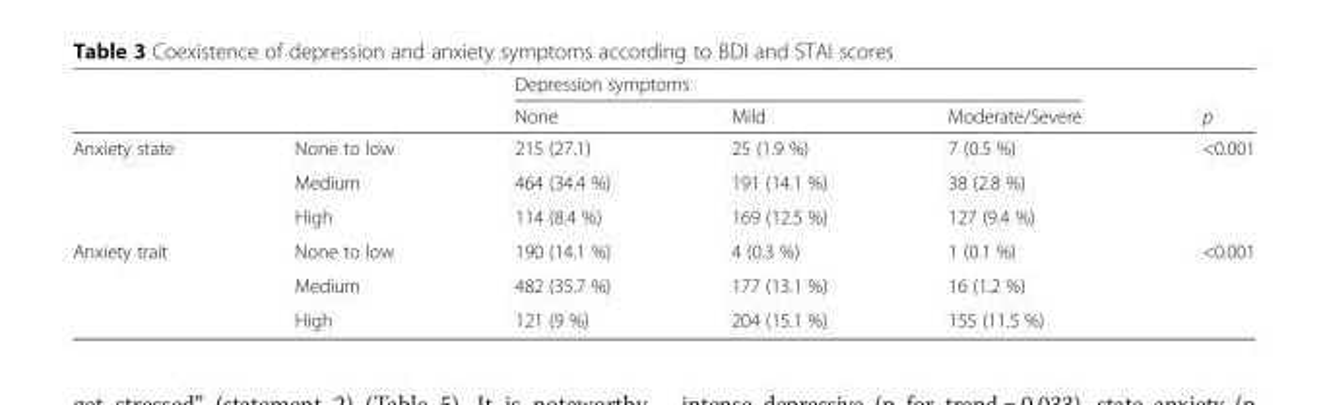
<table><thead><tr><td rowspan="2"></td><td rowspan="2"></td><td colspan="3">Depression symptoms</td><td rowspan="2">p</td></tr><tr><td>None</td><td>Mild</td><td>Moderate/Severe</td></tr></thead><tbody><tr><td rowspan="3">Anxiety state</td><td>None to low</td><td>215 (27.1)</td><td>25 (1.9 %)</td><td>7 (0.5 %)</td><td rowspan="3">&lt;0.001</td></tr><tr><td>Medium</td><td>464 (34.4 %)</td><td>191 (14.1 %)</td><td>38 (2.8 %)</td></tr><tr><td>High</td><td>114 (8.4 %)</td><td>169 (12.5 %)</td><td>127 (9.4 %)</td></tr><tr><td rowspan="3">Anxiety trait</td><td>None to low</td><td>190 (14.1 %)</td><td>4 (0.3 %)</td><td>1 (0.1 %)</td><td rowspan="3">&lt;0.001</td></tr><tr><td>Medium</td><td>482 (35.7 %)</td><td>177 (13.1 %)</td><td>16 (1.2 %)</td></tr><tr><td>High</td><td>121 (9 %)</td><td>204 (15.1 %)</td><td>155 (11.5 %)</td></tr></tbody></table>